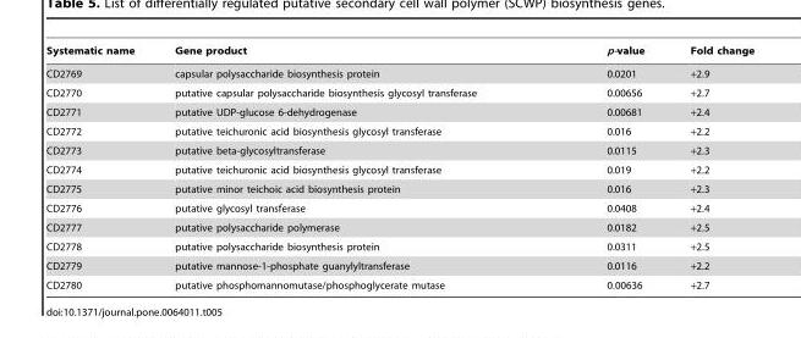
<table><thead><tr><td>Systematic name</td><td>Gene product</td><td>p-value</td><td>Fold change</td></tr></thead><tbody><tr><td>CD2769</td><td>capsular polysaccharide biosynthesis protein</td><td>0.0201</td><td>+2.9</td></tr><tr><td>CD2770</td><td>putative capsular polysaccharide biosynthesis glycosyl transferase</td><td>0.00656</td><td>+2.7</td></tr><tr><td>CD2771</td><td>putative UDP-glucose 6-dehydrogenase</td><td>0.00681</td><td>+2.4</td></tr><tr><td>CD2772</td><td>putative teichuronic acid biosynthesis glycosyl transferase</td><td>0.016</td><td>+2.2</td></tr><tr><td>CD2773</td><td>putative beta-glycosyltransferase</td><td>0.0115</td><td>+2.3</td></tr><tr><td>CD2774</td><td>putative teichuronic acid biosynthesis glycosyl transferase</td><td>0.019</td><td>+2.2</td></tr><tr><td>CD2775</td><td>putative minor teichoic acid biosynthesis protein</td><td>0.016</td><td>+2.3</td></tr><tr><td>CD2776</td><td>putative glycosyl transferase</td><td>0.0408</td><td>+2.4</td></tr><tr><td>CD2777</td><td>putative polysaccharide polymerase</td><td>0.0182</td><td>+2.5</td></tr><tr><td>CD2778</td><td>putative polysaccharide biosynthesis protein</td><td>0.0311</td><td>+2.5</td></tr><tr><td>CD2779</td><td>putative mannose-1-phosphate guanylyltransferase</td><td>0.0116</td><td>+2.2</td></tr><tr><td>CD2780</td><td>putative phosphomannomutase/phosphoglycerate mutase</td><td>0.00636</td><td>+2.7</td></tr></tbody></table>